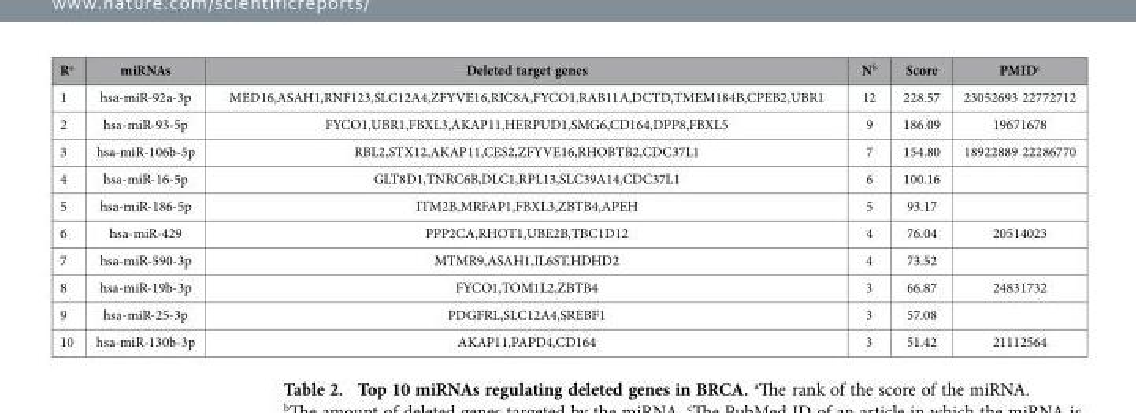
<table><thead><tr><td>R<sup>a</sup></td><td>miRNAs</td><td>Deleted target genes</td><td>N<sup>b</sup></td><td>Score</td><td>PMID<sup>c</sup></td></tr></thead><tbody><tr><td>1</td><td>hsa-miR-92a-3p</td><td>MED16,ASAH1,RNF123,SLC12A4,ZFYVE16,RIC8A,FYCO1,RAB11A,DCTD,TMEM184B,CPEB2,UBR1</td><td>12</td><td>228.57</td><td>23052693 22772712</td></tr><tr><td>2</td><td>hsa-miR-93-5p</td><td>FYCO1,UBR1,FBXL3,AKAP11,HERPUD1,SMG6,CD164,DPP8,FBXL5</td><td>9</td><td>186.09</td><td>19671678</td></tr><tr><td>3</td><td>hsa-miR-106b-5p</td><td>RBL2,STX12,AKAP11,CES2,ZFYVE16,RHOBTB2,CDC37L1</td><td>7</td><td>154.80</td><td>18922889 22286770</td></tr><tr><td>4</td><td>hsa-miR-16-5p</td><td>GLT8D1,TNRC6B,DLC1,RPL13,SLC39A14,CDC37L1</td><td>6</td><td>100.16</td><td></td></tr><tr><td>5</td><td>hsa-miR-186-5p</td><td>ITM2B,MRFAP1,FBXL3,ZBTB4,APEH</td><td>5</td><td>93.17</td><td></td></tr><tr><td>6</td><td>hsa-miR-429</td><td>PPP2CA,RHOT1,UBE2B,TBC1D12</td><td>4</td><td>76.04</td><td>20514023</td></tr><tr><td>7</td><td>hsa-miR-590-3p</td><td>MTMR9,ASAH1,IL6ST,HDHD2</td><td>4</td><td>73.52</td><td></td></tr><tr><td>8</td><td>hsa-miR-19b-3p</td><td>FYCO1,TOM1L2,ZBTB4</td><td>3</td><td>66.87</td><td>24831732</td></tr><tr><td>9</td><td>hsa-miR-25-3p</td><td>PDGFRL,SLC12A4,SREBF1</td><td>3</td><td>57.08</td><td></td></tr><tr><td>10</td><td>hsa-miR-130b-3p</td><td>AKAP11,PAPD4,CD164</td><td>3</td><td>51.42</td><td>21112564</td></tr></tbody></table>